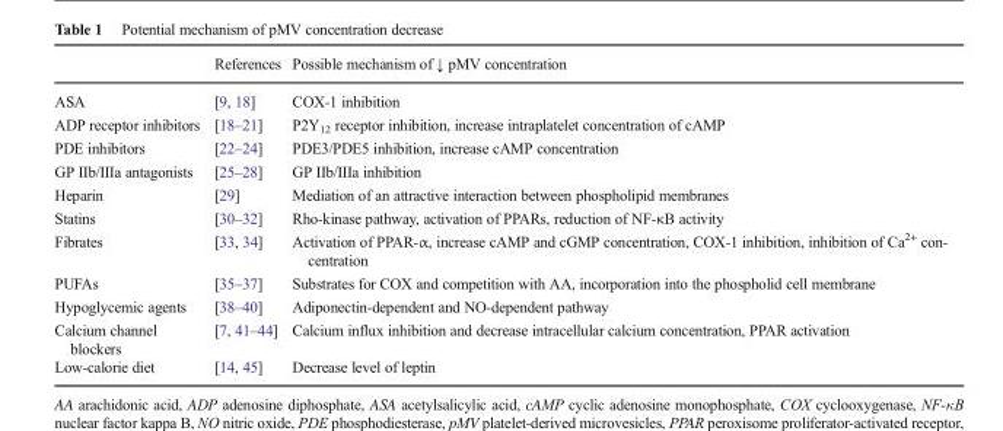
<table><thead><tr><td></td><td>References</td><td>Possible mechanism of ↓ pMV concentration</td></tr></thead><tbody><tr><td>ASA</td><td>[9, 18]</td><td>COX-1 inhibition</td></tr><tr><td>ADP receptor inhibitors</td><td>[18–21]</td><td>P2Y<sub>12</sub> receptor inhibition, increase intraplatelet concentration of cAMP</td></tr><tr><td>PDE inhibitors</td><td>[22–24]</td><td>PDE3/PDE5 inhibition, increase cAMP concentration</td></tr><tr><td>GP IIb/IIIa antagonists</td><td>[25–28]</td><td>GP IIb/IIIa inhibition</td></tr><tr><td>Heparin</td><td>[29]</td><td>Mediation of an attractive interaction between phospholipid membranes</td></tr><tr><td>Statins</td><td>[30–32]</td><td>Rho-kinase pathway, activation of PPARs, reduction of NF-κB activity</td></tr><tr><td>Fibrates</td><td>[33, 34]</td><td>Activation of PPAR-α, increase cAMP and cGMP concentration, COX-1 inhibition, inhibition of Ca2+ con- centration</td></tr><tr><td>PUFAs</td><td>[35–37]</td><td>Substrates for COX and competition with AA, incorporation into the phospholid cell membrane</td></tr><tr><td>Hypoglycemic agents</td><td>[38–40]</td><td>Adiponectin-dependent and NO-dependent pathway</td></tr><tr><td>Calcium channel blockers</td><td>[7, 41–44]</td><td>Calcium influx inhibition and decrease intracellular calcium concentration, PPAR activation</td></tr><tr><td>Low-calorie diet</td><td>[14, 45]</td><td>Decrease level of leptin</td></tr></tbody></table>